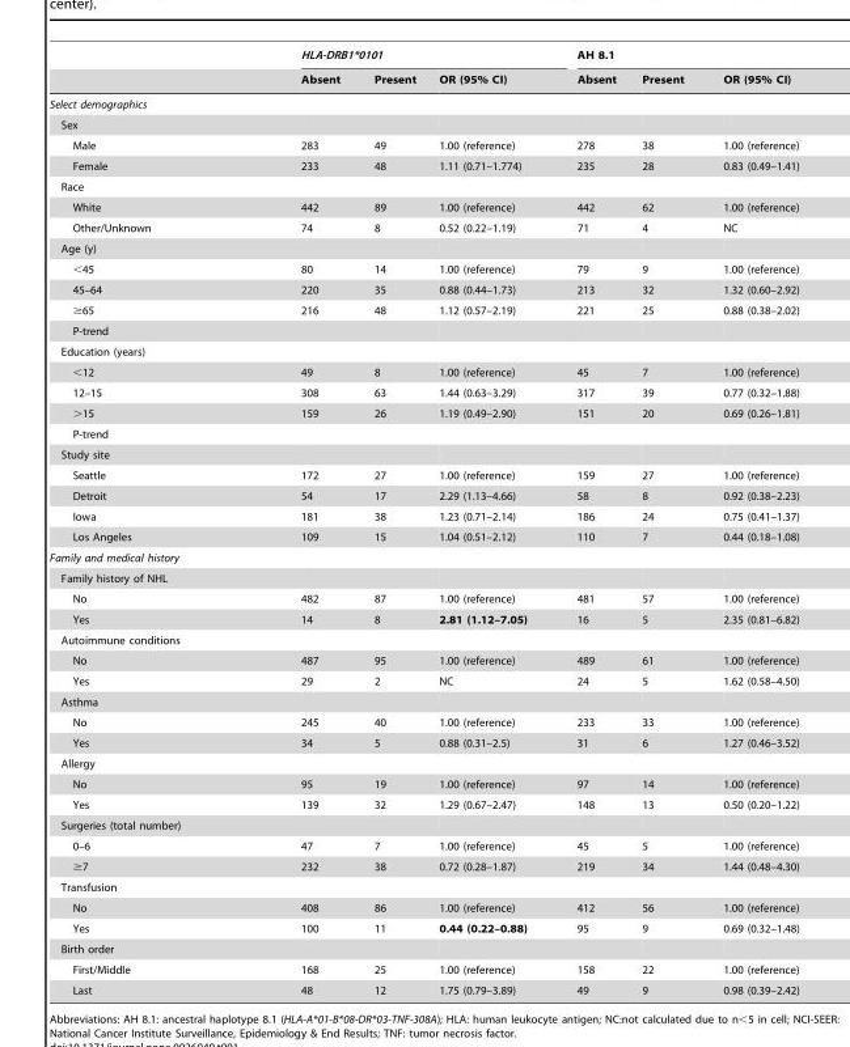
<table><thead><tr><td rowspan="2"></td><td colspan="3">HLA-DRB1*0101</td><td colspan="3">AH 8.1</td></tr><tr><td>Absent</td><td>Present</td><td>OR (95% CI)</td><td>Absent</td><td>Present</td><td>OR (95% CI)</td></tr></thead><tbody><tr><td colspan="7">Select demographics</td></tr><tr><td colspan="7">Sex</td></tr><tr><td>Male</td><td>283</td><td>49</td><td>1.00 (reference)</td><td>278</td><td>38</td><td>1.00 (reference)</td></tr><tr><td>Female</td><td>233</td><td>48</td><td>1.11 (0.71–1.774)</td><td>235</td><td>28</td><td>0.83 (0.49–1.41)</td></tr><tr><td colspan="7">Race</td></tr><tr><td>White</td><td>442</td><td>89</td><td>1.00 (reference)</td><td>442</td><td>62</td><td>1.00 (reference)</td></tr><tr><td>Other/Unknown</td><td>74</td><td>8</td><td>0.52 (0.22–1.19)</td><td>71</td><td>4</td><td>NC</td></tr><tr><td colspan="7">Age (y)</td></tr><tr><td>&lt;45</td><td>80</td><td>14</td><td>1.00 (reference)</td><td>79</td><td>9</td><td>1.00 (reference)</td></tr><tr><td>45–64</td><td>220</td><td>35</td><td>0.88 (0.44–1.73)</td><td>213</td><td>32</td><td>1.32 (0.60–2.92)</td></tr><tr><td>≥65</td><td>216</td><td>48</td><td>1.12 (0.57–2.19)</td><td>221</td><td>25</td><td>0.88 (0.38–2.02)</td></tr><tr><td colspan="7">P-trend</td></tr><tr><td colspan="7">Education (years)</td></tr><tr><td>&lt;12</td><td>49</td><td>8</td><td>1.00 (reference)</td><td>45</td><td>7</td><td>1.00 (reference)</td></tr><tr><td>12–15</td><td>308</td><td>63</td><td>1.44 (0.63–3.29)</td><td>317</td><td>39</td><td>0.77 (0.32–1.88)</td></tr><tr><td>&gt;15</td><td>159</td><td>26</td><td>1.19 (0.49–2.90)</td><td>151</td><td>20</td><td>0.69 (0.26–1.81)</td></tr><tr><td colspan="7">P-trend</td></tr><tr><td colspan="7">Study site</td></tr><tr><td>Seattle</td><td>172</td><td>27</td><td>1.00 (reference)</td><td>159</td><td>27</td><td>1.00 (reference)</td></tr><tr><td>Detroit</td><td>54</td><td>17</td><td>2.29 (1.13–4.66)</td><td>58</td><td>8</td><td>0.92 (0.38–2.23)</td></tr><tr><td>Iowa</td><td>181</td><td>38</td><td>1.23 (0.71–2.14)</td><td>186</td><td>24</td><td>0.75 (0.41–1.37)</td></tr><tr><td>Los Angeles</td><td>109</td><td>15</td><td>1.04 (0.51–2.12)</td><td>110</td><td>7</td><td>0.44 (0.18–1.08)</td></tr><tr><td colspan="7">Family and medical history</td></tr><tr><td colspan="7">Family history of NHL</td></tr><tr><td>No</td><td>482</td><td>87</td><td>1.00 (reference)</td><td>481</td><td>57</td><td>1.00 (reference)</td></tr><tr><td>Yes</td><td>14</td><td>8</td><td>2.81 (1.12–7.05)</td><td>16</td><td>5</td><td>2.35 (0.81–6.82)</td></tr><tr><td colspan="7">Autoimmune conditions</td></tr><tr><td>No</td><td>487</td><td>95</td><td>1.00 (reference)</td><td>489</td><td>61</td><td>1.00 (reference)</td></tr><tr><td>Yes</td><td>29</td><td>2</td><td>NC</td><td>24</td><td>5</td><td>1.62 (0.58–4.50)</td></tr><tr><td colspan="7">Asthma</td></tr><tr><td>No</td><td>245</td><td>40</td><td>1.00 (reference)</td><td>233</td><td>33</td><td>1.00 (reference)</td></tr><tr><td>Yes</td><td>34</td><td>5</td><td>0.88 (0.31–2.5)</td><td>31</td><td>6</td><td>1.27 (0.46–3.52)</td></tr><tr><td colspan="7">Allergy</td></tr><tr><td>No</td><td>95</td><td>19</td><td>1.00 (reference)</td><td>97</td><td>14</td><td>1.00 (reference)</td></tr><tr><td>Yes</td><td>139</td><td>32</td><td>1.29 (0.67–2.47)</td><td>148</td><td>13</td><td>0.50 (0.20–1.22)</td></tr><tr><td colspan="7">Surgeries (total number)</td></tr><tr><td>0–6</td><td>47</td><td>7</td><td>1.00 (reference)</td><td>45</td><td>5</td><td>1.00 (reference)</td></tr><tr><td>≥7</td><td>232</td><td>38</td><td>0.72 (0.28–1.87)</td><td>219</td><td>34</td><td>1.44 (0.48–4.30)</td></tr><tr><td colspan="7">Transfusion</td></tr><tr><td>No</td><td>408</td><td>86</td><td>1.00 (reference)</td><td>412</td><td>56</td><td>1.00 (reference)</td></tr><tr><td>Yes</td><td>100</td><td>11</td><td>0.44 (0.22–0.88)</td><td>95</td><td>9</td><td>0.69 (0.32–1.48)</td></tr><tr><td colspan="7">Birth order</td></tr><tr><td>First/Middle</td><td>168</td><td>25</td><td>1.00 (reference)</td><td>158</td><td>22</td><td>1.00 (reference)</td></tr><tr><td>Last</td><td>48</td><td>12</td><td>1.75 (0.79–3.89)</td><td>49</td><td>9</td><td>0.98 (0.39–2.42)</td></tr></tbody></table>